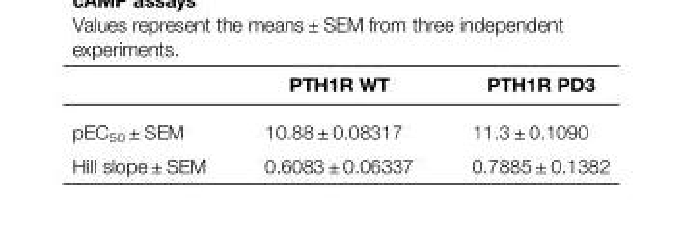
<table><thead><tr><td></td><td>PTH1R WT</td><td>PTH1R PD3</td></tr></thead><tbody><tr><td>pEC<sub>50</sub> ± SEM</td><td>10.88 ± 0.08317</td><td>11.3 ± 0.1090</td></tr><tr><td>Hill slope ± SEM</td><td>0.6083 ± 0.06337</td><td>0.7885 ± 0.1382</td></tr></tbody></table>